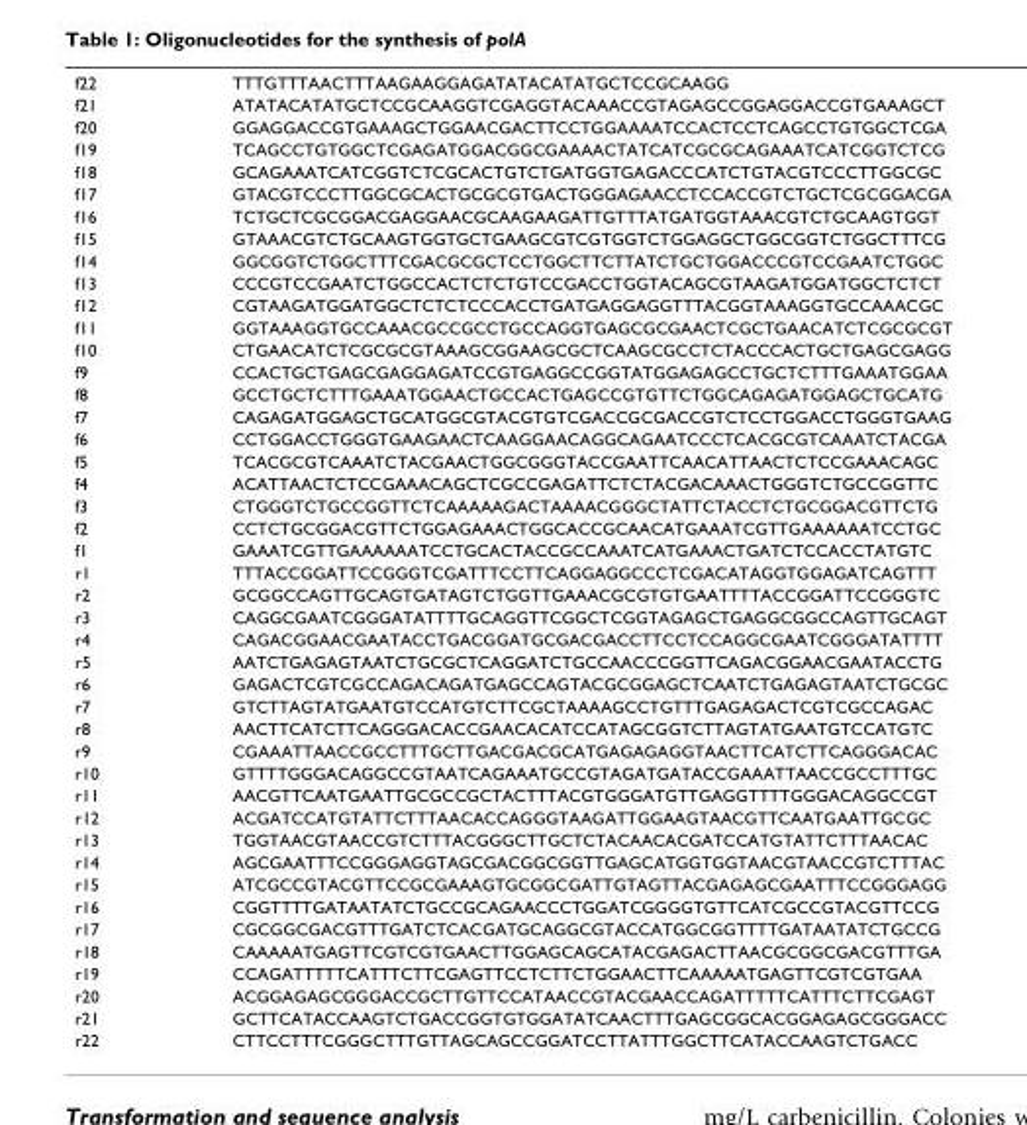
<table><tbody><tr><td>f22</td><td>TTTGTTTAACTTTAAGAAGGAGATATACATATGCTCCGCAAGG</td></tr><tr><td>f21</td><td>ATATACATATGCTCCGCAAGGTCGAGGTACAAACCGTAGAGCCGGAGGACCGTGAAAGCT</td></tr><tr><td>f20</td><td>GGAGGACCGTGAAAGCTGGAACGACTTCCTGGAAAATCCACTCCTCAGCCTGTGGCTCGA</td></tr><tr><td>f19</td><td>TCAGCCTGTGGCTCGAGATGGACGGCGAAAACTATCATCGCGCAGAAATCATCGGTCTCG</td></tr><tr><td>f18</td><td>GCAGAAATCATCGGTCTCGCACTGTCTGATGGTGAGACCCATCTGTACGTCCCTTGGCGC</td></tr><tr><td>f17</td><td>GTACGTCCCTTGGCGCACTGCGCGTGACTGGGAGAACCTCCACCGTCTGCTCGCGGACGA</td></tr><tr><td>f16</td><td>TCTGCTCGCGGACGAGGAACGCAAGAAGATTGTTTATGATGGTAAACGTCTGCAAGTGGT</td></tr><tr><td>f15</td><td>GTAAACGTCTGCAAGTGGTGCTGAAGCGTCGTGGTCTGGAGGCTGGCGGTCTGGCTTTCG</td></tr><tr><td>f14</td><td>GGCGGTCTGGCTTTCGACGCGCTCCTGGCTTCTTATCTGCTGGACCCGTCCGAATCTGGC</td></tr><tr><td>f13</td><td>CCCGTCCGAATCTGGCCACTCTCTGTCCGACCTGGTACAGCGTAAGATGGATGGCTCTCT</td></tr><tr><td>f12</td><td>CGTAAGATGGATGGCTCTCTCCCACCTGATGAGGAGGTTTACGGTAAAGGTGCCAAACGC</td></tr><tr><td>f11</td><td>GGTAAAGGTGCCAAACGCCGCCTGCCAGGTGAGCGCGAACTCGCTGAACATCTCGCGCGT</td></tr><tr><td>f10</td><td>CTGAACATCTCGCGCGTAAAGCGGAAGCGCTCAAGCGCCTCTACCCACTGCTGAGCGAGG</td></tr><tr><td>f9</td><td>CCACTGCTGAGCGAGGAGATCCGTGAGGCCGGTATGGAGAGCCTGCTCTTTGAAATGGAA</td></tr><tr><td>f8</td><td>GCCTGCTCTTTGAAATGGAACTGCCACTGAGCCGTGTTCTGGCAGAGATGGAGCTGCATG</td></tr><tr><td>f7</td><td>CAGAGATGGAGCTGCATGGCGTACGTGTCGACCGCGACCGTCTCCTGGACCTGGGTGAAG</td></tr><tr><td>f6</td><td>CCTGGACCTGGGTGAAGAACTCAAGGAACAGGCAGAATCCCTCACGCGTCAAATCTACGA</td></tr><tr><td>f5</td><td>TCACGCGTCAAATCTACGAACTGGCGGGTACCGAATTCAACATTAACTCTCCGAAACAGC</td></tr><tr><td>f4</td><td>ACATTAACTCTCCGAAACAGCTCGCCGAGATTCTCTACGACAAACTGGGTCTGCCGGTTC</td></tr><tr><td>f3</td><td>CTGGGTCTGCCGGTTCTCAAAAAGACTAAAACGGGCTATTCTACCTCTGCGGACGTTCTG</td></tr><tr><td>f2</td><td>CCTCTGCGGACGTTCTGGAGAAACTGGCACCGCAACATGAAATCGTTGAAAAAATCCTGC</td></tr><tr><td>f1</td><td>GAAATCGTTGAAAAAATCCTGCACTACCGCCAAATCATGAAACTGATCTCCACCTATGTC</td></tr><tr><td>r1</td><td>TTTACCGGATTCCGGGTCGATTTCCTTCAGGAGGCCCTCGACATAGGTGGAGATCAGTTT</td></tr><tr><td>r2</td><td>GCGGCCAGTTGCAGTGATAGTCTGGTTGAAACGCGTGTGAATTTTACCGGATTCCGGGTC</td></tr><tr><td>r3</td><td>CAGGCGAATCGGGATATTTTGCAGGTTCGGCTCGGTAGAGCTGAGGCGGCCAGTTGCAGT</td></tr><tr><td>r4</td><td>CAGACGGAACGAATACCTGACGGATGCGACGACCTTCCTCCAGGCGAATCGGGATATTTT</td></tr><tr><td>r5</td><td>AATCTGAGAGTAATCTGCGCTCAGGATCTGCCAACCCGGTTCAGACGGAACGAATACCTG</td></tr><tr><td>r6</td><td>GAGACTCGTCGCCAGACAGATGAGCCAGTACGCGGAGCTCAATCTGAGAGTAATCTGCGC</td></tr><tr><td>r7</td><td>GTCTTAGTATGAATGTCCATGTCTTCGCTAAAAGCCTGTTTGAGAGACTCGTCGCCAGAC</td></tr><tr><td>r8</td><td>AACTTCATCTTCAGGGACACCGAACACATCCATAGCGGTCTTAGTATGAATGTCCATGTC</td></tr><tr><td>r9</td><td>CGAAATTAACCGCCTTTGCTTGACGACGCATGAGAGAGGTAACTTCATCTTCAGGGACAC</td></tr><tr><td>r10</td><td>GTTTTGGGACAGGCCGTAATCAGAAATGCCGTAGATGATACCGAAATTAACCGCCTTTGC</td></tr><tr><td>r11</td><td>AACGTTCAATGAATTGCGCCGCTACTTTACGTGGGATGTTGAGGTTTTGGGACAGGCCGT</td></tr><tr><td>r12</td><td>ACGATCCATGTATTCTTTAACACCAGGGTAAGATTGGAAGTAACGTTCAATGAATTGCGC</td></tr><tr><td>r13</td><td>TGGTAACGTAACCGTCTTTACGGGCTTGCTCTACAACACGATCCATGTATTCTTTAACAC</td></tr><tr><td>r14</td><td>AGCGAATTTCCGGGAGGTAGCGACGGCGGTTGAGCATGGTGGTAACGTAACCGTCTTTAC</td></tr><tr><td>r15</td><td>ATCGCCGTACGTTCCGCGAAAGTGCGGCGATTGTAGTTACGAGAGCGAATTTCCGGGAGG</td></tr><tr><td>r16</td><td>CGGTTTTGATAATATCTGCCGCAGAACCCTGGATCGGGGTGTTCATCGCCGTACGTTCCG</td></tr><tr><td>r17</td><td>CGCGGCGACGTTTGATCTCACGATGCAGGCGTACCATGGCGGTTTTGATAATATCTGCCG</td></tr><tr><td>r18</td><td>CAAAAATGAGTTCGTCGTGAACTTGGAGCAGCATACGAGACTTAACGCGGCGACGTTTGA</td></tr><tr><td>r19</td><td>CCAGATTTTTCATTTCTTCGAGTTCCTCTTCTGGAACTTCAAAAATGAGTTCGTCGTGAA</td></tr><tr><td>r20</td><td>ACGGAGAGCGGGACCGCTTGTTCCATAACCGTACGAACCAGATTTTTCATTTCTTCGAGT</td></tr><tr><td>r21</td><td>GCTTCATACCAAGTCTGACCGGTGTGGATATCAACTTTGAGCGGCACGGAGAGCGGGACC</td></tr><tr><td>r22</td><td>CTTCCTTTCGGGCTTTGTTAGCAGCCGGATCCTTATTTGGCTTCATACCAAGTCTGACC</td></tr></tbody></table>